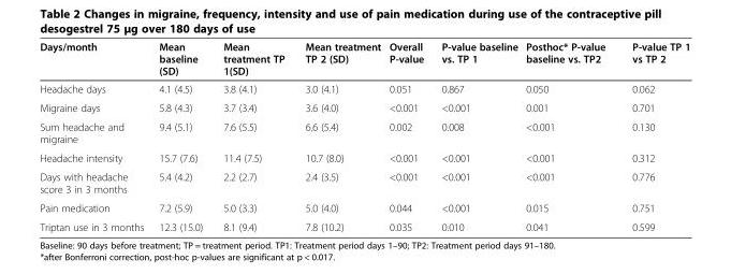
<table><thead><tr><td>Days/month</td><td>Mean baseline (SD)</td><td>Mean treatment TP 1(SD)</td><td>Mean treatment TP 2 (SD)</td><td>Overall P-value</td><td>P-value baseline vs. TP 1</td><td>Posthoc* P-value baseline vs. TP2</td><td>P-value TP 1 vs TP 2</td></tr></thead><tbody><tr><td>Headache days</td><td>4.1 (4.5)</td><td>3.8 (4.1)</td><td>3.0 (4.1)</td><td>0.051</td><td>0.867</td><td>0.050</td><td>0.062</td></tr><tr><td>Migraine days</td><td>5.8 (4.3)</td><td>3.7 (3.4)</td><td>3.6 (4.0)</td><td>&lt;0.001</td><td>&lt;0.001</td><td>0.001</td><td>0.701</td></tr><tr><td>Sum headache and migraine</td><td>9.4 (5.1)</td><td>7.6 (5.5)</td><td>6.6 (5.4)</td><td>0.002</td><td>0.008</td><td>&lt;0.001</td><td>0.130</td></tr><tr><td>Headache intensity</td><td>15.7 (7.6)</td><td>11.4 (7.5)</td><td>10.7 (8.0)</td><td>&lt;0.001</td><td>&lt;0.001</td><td>&lt;0.001</td><td>0.312</td></tr><tr><td>Days with headache score 3 in 3 months</td><td>5.4 (4.2)</td><td>2.2 (2.7)</td><td>2.4 (3.5)</td><td>&lt;0.001</td><td>&lt;0.001</td><td>&lt;0.001</td><td>0.776</td></tr><tr><td>Pain medication</td><td>7.2 (5.9)</td><td>5.0 (3.3)</td><td>5.0 (4.0)</td><td>0.044</td><td>&lt;0.001</td><td>0.015</td><td>0.751</td></tr><tr><td>Triptan use in 3 months</td><td>12.3 (15.0)</td><td>8.1 (9.4)</td><td>7.8 (10.2)</td><td>0.035</td><td>0.010</td><td>0.041</td><td>0.599</td></tr></tbody></table>